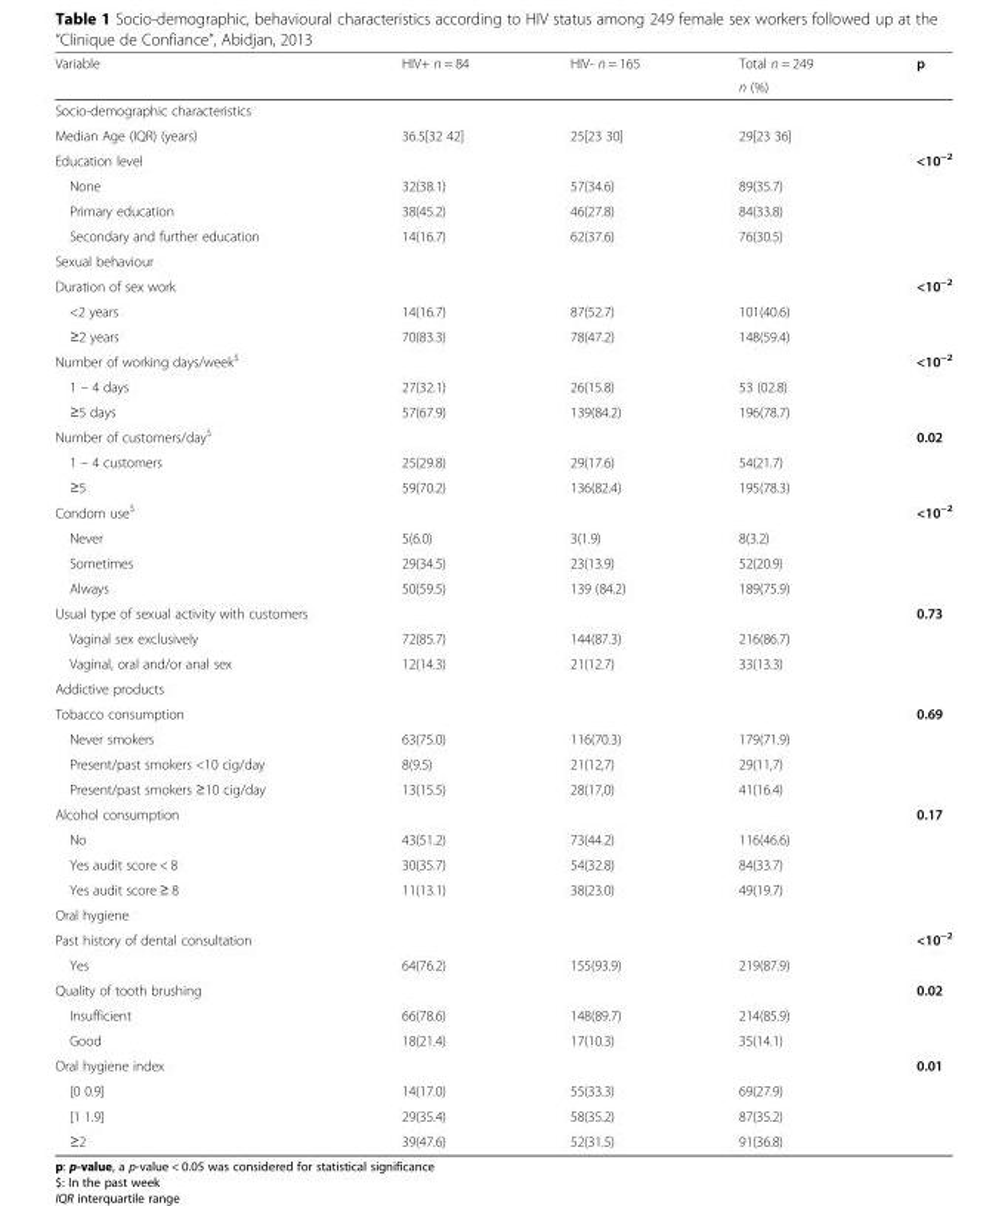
<table><thead><tr><td rowspan="2">Variable</td><td rowspan="2">HIV+ n = 84</td><td rowspan="2">HIV- n = 165</td><td rowspan="2">Total n = 249 n (%)</td><td rowspan="2">p</td></tr><tr></tr></thead><tbody><tr><td colspan="5">Socio-demographic characteristics</td></tr><tr><td>Median Age (IQR) (years)</td><td>36.5[32 42]</td><td>25[23 30]</td><td>29[23 36]</td><td></td></tr><tr><td>Education level</td><td></td><td></td><td></td><td>&lt;10<sup>−2</sup></td></tr><tr><td>None</td><td>32(38.1)</td><td>57(34.6)</td><td>89(35.7)</td><td></td></tr><tr><td>Primary education</td><td>38(45.2)</td><td>46(27.8)</td><td>84(33.8)</td><td></td></tr><tr><td>Secondary and further education</td><td>14(16.7)</td><td>62(37.6)</td><td>76(30.5)</td><td></td></tr><tr><td colspan="5">Sexual behaviour</td></tr><tr><td>Duration of sex work</td><td></td><td></td><td></td><td>&lt;10<sup>−2</sup></td></tr><tr><td>&lt;2 years</td><td>14(16.7)</td><td>87(52.7)</td><td>101(40.6)</td><td></td></tr><tr><td>≥2 years</td><td>70(83.3)</td><td>78(47.2)</td><td>148(59.4)</td><td></td></tr><tr><td>Number of working days/week<sup>$</sup></td><td></td><td></td><td></td><td>&lt;10<sup>−2</sup></td></tr><tr><td>1 – 4 days</td><td>27(32.1)</td><td>26(15.8)</td><td>53 (02.8)</td><td></td></tr><tr><td>≥5 days</td><td>57(67.9)</td><td>139(84.2)</td><td>196(78.7)</td><td></td></tr><tr><td>Number of customers/day<sup>$</sup></td><td></td><td></td><td></td><td>0.02</td></tr><tr><td>1 – 4 customers</td><td>25(29.8)</td><td>29(17.6)</td><td>54(21.7)</td><td></td></tr><tr><td>≥5</td><td>59(70.2)</td><td>136(82.4)</td><td>195(78.3)</td><td></td></tr><tr><td>Condom use<sup>$</sup></td><td></td><td></td><td></td><td>&lt;10<sup>−2</sup></td></tr><tr><td>Never</td><td>5(6.0)</td><td>3(1.9)</td><td>8(3.2)</td><td></td></tr><tr><td>Sometimes</td><td>29(34.5)</td><td>23(13.9)</td><td>52(20.9)</td><td></td></tr><tr><td>Always</td><td>50(59.5)</td><td>139 (84.2)</td><td>189(75.9)</td><td></td></tr><tr><td>Usual type of sexual activity with customers</td><td></td><td></td><td></td><td>0.73</td></tr><tr><td>Vaginal sex exclusively</td><td>72(85.7)</td><td>144(87.3)</td><td>216(86.7)</td><td></td></tr><tr><td>Vaginal, oral and/or anal sex</td><td>12(14.3)</td><td>21(12.7)</td><td>33(13.3)</td><td></td></tr><tr><td colspan="5">Addictive products</td></tr><tr><td>Tobacco consumption</td><td></td><td></td><td></td><td>0.69</td></tr><tr><td>Never smokers</td><td>63(75.0)</td><td>116(70.3)</td><td>179(71.9)</td><td></td></tr><tr><td>Present/past smokers &lt;10 cig/day</td><td>8(9.5)</td><td>21(12,7)</td><td>29(11,7)</td><td></td></tr><tr><td>Present/past smokers ≥10 cig/day</td><td>13(15.5)</td><td>28(17,0)</td><td>41(16.4)</td><td></td></tr><tr><td>Alcohol consumption</td><td></td><td></td><td></td><td>0.17</td></tr><tr><td>No</td><td>43(51.2)</td><td>73(44.2)</td><td>116(46.6)</td><td></td></tr><tr><td>Yes audit score &lt; 8</td><td>30(35.7)</td><td>54(32.8)</td><td>84(33.7)</td><td></td></tr><tr><td>Yes audit score ≥ 8</td><td>11(13.1)</td><td>38(23.0)</td><td>49(19.7)</td><td></td></tr><tr><td colspan="5">Oral hygiene</td></tr><tr><td>Past history of dental consultation</td><td></td><td></td><td></td><td>&lt;10<sup>−2</sup></td></tr><tr><td>Yes</td><td>64(76.2)</td><td>155(93.9)</td><td>219(87.9)</td><td></td></tr><tr><td>Quality of tooth brushing</td><td></td><td></td><td></td><td>0.02</td></tr><tr><td>Insufficient</td><td>66(78.6)</td><td>148(89.7)</td><td>214(85.9)</td><td></td></tr><tr><td>Good</td><td>18(21.4)</td><td>17(10.3)</td><td>35(14.1)</td><td></td></tr><tr><td>Oral hygiene index</td><td></td><td></td><td></td><td>0.01</td></tr><tr><td>[0 0.9]</td><td>14(17.0)</td><td>55(33.3)</td><td>69(27.9)</td><td></td></tr><tr><td>[1 1.9]</td><td>29(35.4)</td><td>58(35.2)</td><td>87(35.2)</td><td></td></tr><tr><td>≥2</td><td>39(47.6)</td><td>52(31.5)</td><td>91(36.8)</td><td></td></tr></tbody></table>